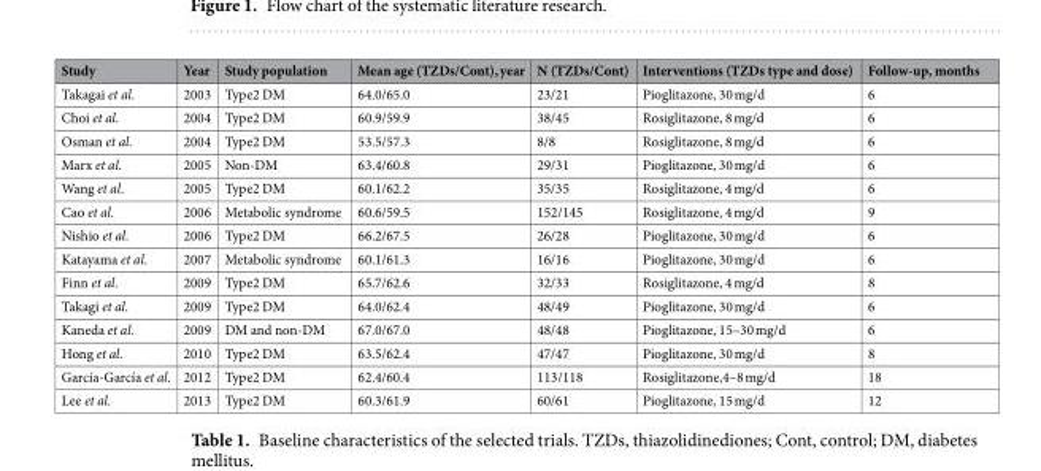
<table><thead><tr><td>Study</td><td>Year</td><td>Study population</td><td>Mean age (TZDs/Cont), year</td><td>N (TZDs/Cont)</td><td>Interventions (TZDs type and dose)</td><td>Follow-up, months</td></tr></thead><tbody><tr><td>Takagai et al.</td><td>2003</td><td>Type2 DM</td><td>64.0/65.0</td><td>23/21</td><td>Pioglitazone, 30 mg/d</td><td>6</td></tr><tr><td>Choi et al.</td><td>2004</td><td>Type2 DM</td><td>60.9/59.9</td><td>38/45</td><td>Rosiglitazone, 8 mg/d</td><td>6</td></tr><tr><td>Osman et al.</td><td>2004</td><td>Type2 DM</td><td>53.5/57.3</td><td>8/8</td><td>Rosiglitazone, 8 mg/d</td><td>6</td></tr><tr><td>Marx et al.</td><td>2005</td><td>Non-DM</td><td>63.4/60.8</td><td>29/31</td><td>Pioglitazone, 30 mg/d</td><td>6</td></tr><tr><td>Wang et al.</td><td>2005</td><td>Type2 DM</td><td>60.1/62.2</td><td>35/35</td><td>Rosiglitazone, 4 mg/d</td><td>6</td></tr><tr><td>Cao et al.</td><td>2006</td><td>Metabolic syndrome</td><td>60.6/59.5</td><td>152/145</td><td>Rosiglitazone, 4 mg/d</td><td>9</td></tr><tr><td>Nishio et al.</td><td>2006</td><td>Type2 DM</td><td>66.2/67.5</td><td>26/28</td><td>Pioglitazone, 30 mg/d</td><td>6</td></tr><tr><td>Katayama et al.</td><td>2007</td><td>Metabolic syndrome</td><td>60.1/61.3</td><td>16/16</td><td>Pioglitazone, 30 mg/d</td><td>6</td></tr><tr><td>Finn et al.</td><td>2009</td><td>Type2 DM</td><td>65.7/62.6</td><td>32/33</td><td>Rosiglitazone, 4 mg/d</td><td>8</td></tr><tr><td>Takagi et al.</td><td>2009</td><td>Type2 DM</td><td>64.0/62.4</td><td>48/49</td><td>Pioglitazone, 30 mg/d</td><td>6</td></tr><tr><td>Kaneda et al.</td><td>2009</td><td>DM and non-DM</td><td>67.0/67.0</td><td>48/48</td><td>Pioglitazone, 15–30 mg/d</td><td>6</td></tr><tr><td>Hong et al.</td><td>2010</td><td>Type2 DM</td><td>63.5/62.4</td><td>47/47</td><td>Pioglitazone, 30 mg/d</td><td>8</td></tr><tr><td>García-García et al.</td><td>2012</td><td>Type2 DM</td><td>62.4/60.4</td><td>113/118</td><td>Rosiglitazone,4–8 mg/d</td><td>18</td></tr><tr><td>Lee et al.</td><td>2013</td><td>Type2 DM</td><td>60.3/61.9</td><td>60/61</td><td>Pioglitazone, 15 mg/d</td><td>12</td></tr></tbody></table>